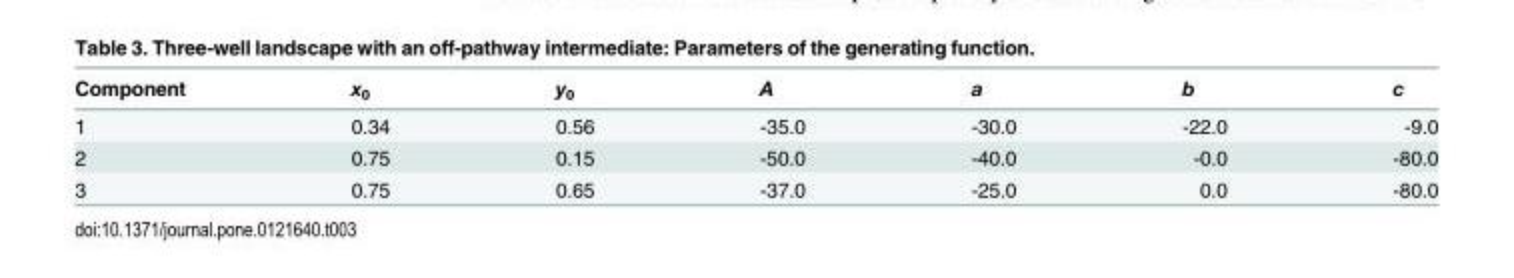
<table><thead><tr><td>Component</td><td>x<sub>0</sub></td><td>y<sub>0</sub></td><td>A</td><td>a</td><td>b</td><td>c</td></tr></thead><tbody><tr><td>1</td><td>0.34</td><td>0.56</td><td>-35.0</td><td>-30.0</td><td>-22.0</td><td>-9.0</td></tr><tr><td>2</td><td>0.75</td><td>0.15</td><td>-50.0</td><td>-40.0</td><td>-0.0</td><td>-80.0</td></tr><tr><td>3</td><td>0.75</td><td>0.65</td><td>-37.0</td><td>-25.0</td><td>0.0</td><td>-80.0</td></tr></tbody></table>